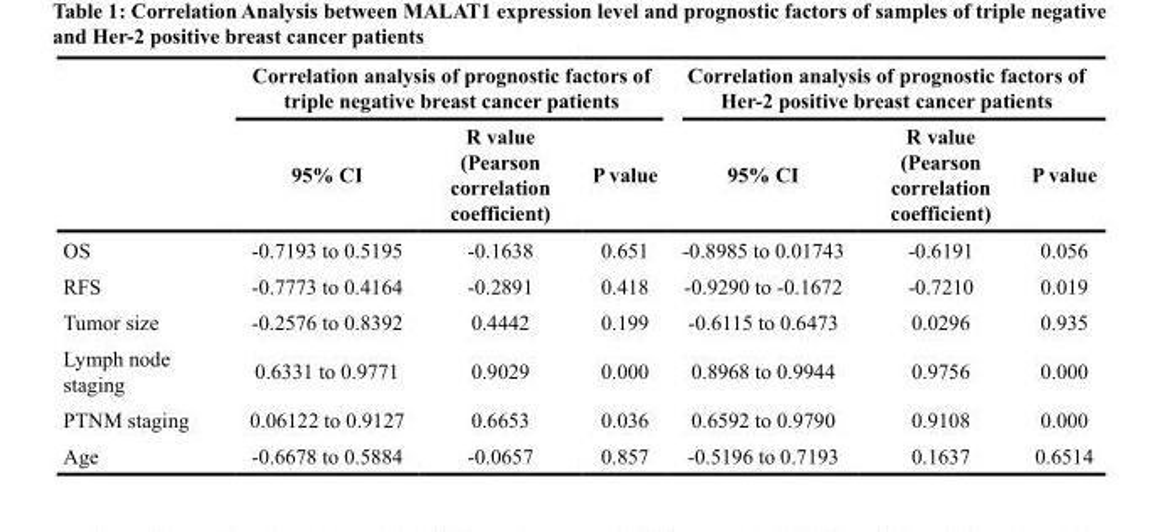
<table><thead><tr><td rowspan="2"></td><td colspan="3">Correlation analysis of prognostic factors of triple negative breast cancer patients</td><td colspan="3">Correlation analysis of prognostic factors of Her-2 positive breast cancer patients</td></tr><tr><td>95% CI</td><td>R value (Pearson correlation coefficient)</td><td>P value</td><td>95% CI</td><td>R value (Pearson correlation coefficient)</td><td>P value</td></tr></thead><tbody><tr><td>OS</td><td>-0.7193 to 0.5195</td><td>-0.1638</td><td>0.651</td><td>-0.8985 to 0.01743</td><td>-0.6191</td><td>0.056</td></tr><tr><td>RFS</td><td>-0.7773 to 0.4164</td><td>-0.2891</td><td>0.418</td><td>-0.9290 to -0.1672</td><td>-0.7210</td><td>0.019</td></tr><tr><td>Tumor size</td><td>-0.2576 to 0.8392</td><td>0.4442</td><td>0.199</td><td>-0.6115 to 0.6473</td><td>0.0296</td><td>0.935</td></tr><tr><td>Lymph node staging</td><td>0.6331 to 0.9771</td><td>0.9029</td><td>0.000</td><td>0.8968 to 0.9944</td><td>0.9756</td><td>0.000</td></tr><tr><td>PTNM staging</td><td>0.06122 to 0.9127</td><td>0.6653</td><td>0.036</td><td>0.6592 to 0.9790</td><td>0.9108</td><td>0.000</td></tr><tr><td>Age</td><td>-0.6678 to 0.5884</td><td>-0.0657</td><td>0.857</td><td>-0.5196 to 0.7193</td><td>0.1637</td><td>0.6514</td></tr></tbody></table>